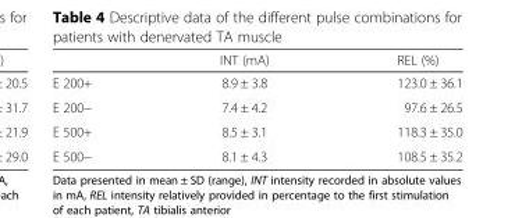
<table><thead><tr><td></td><td>INT (mA)</td><td>REL (%)</td></tr></thead><tbody><tr><td>E 200+</td><td>8.9 ± 3.8</td><td>123.0 ± 36.1</td></tr><tr><td>E 200−</td><td>7.4 ± 4.2</td><td>97.6 ± 26.5</td></tr><tr><td>E 500+</td><td>8.5 ± 3.1</td><td>118.3 ± 35.0</td></tr><tr><td>E 500−</td><td>8.1 ± 4.3</td><td>108.5 ± 35.2</td></tr></tbody></table>